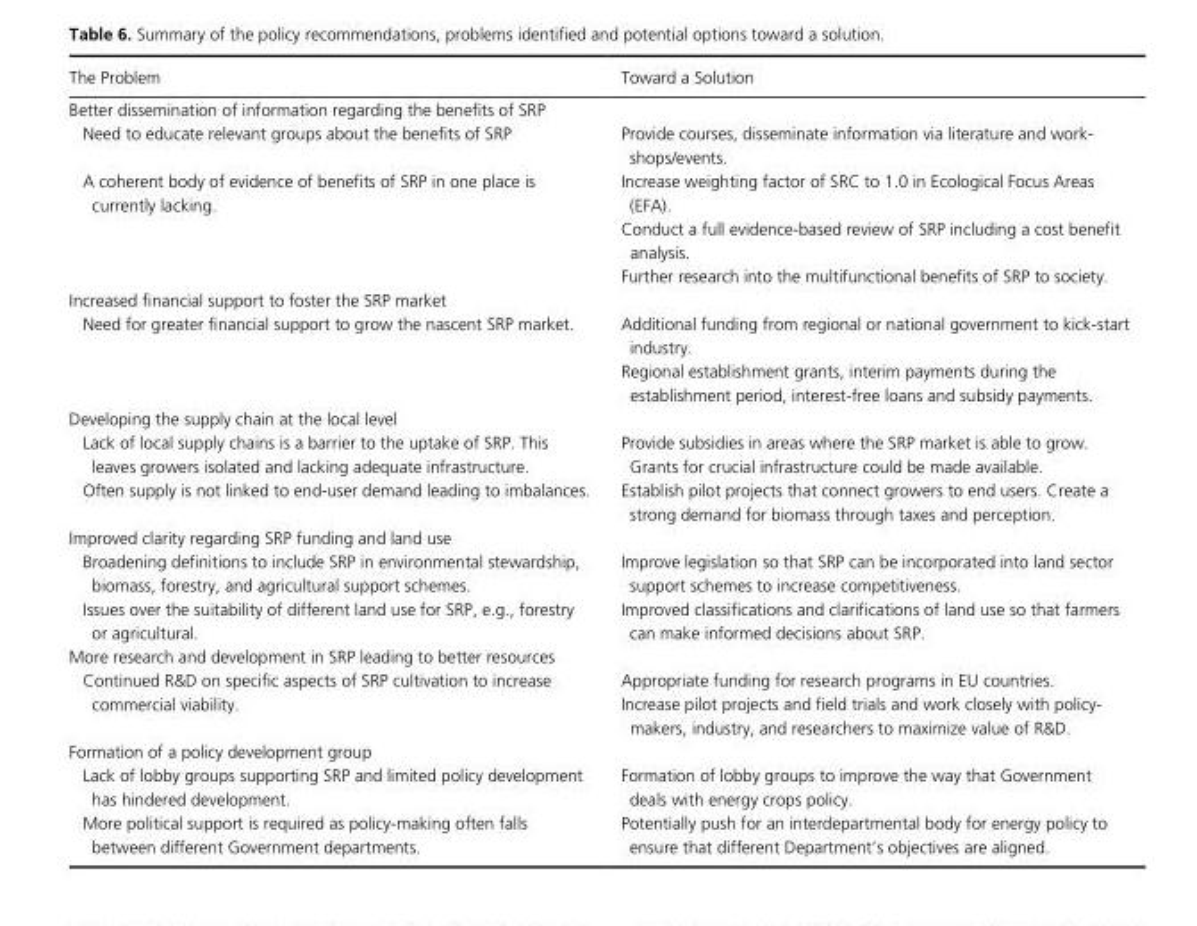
<table><thead><tr><td>The Problem</td><td>Toward a Solution</td></tr></thead><tbody><tr><td colspan="2">Better dissemination of information regarding the benefits of SRP</td></tr><tr><td>Need to educate relevant groups about the benefits of SRP</td><td>Provide courses, disseminate information via literature and work- shops/events.</td></tr><tr><td rowspan="3">A coherent body of evidence of benefits of SRP in one place is currently lacking.</td><td>Increase weighting factor of SRC to 1.0 in Ecological Focus Areas (EFA).</td></tr><tr><td>Conduct a full evidence- based review of SRP including a cost benefit analysis.</td></tr><tr><td>Further research into the multifunctional benefits of SRP to society.</td></tr><tr><td colspan="2">Increased financial support to foster the SRP market</td></tr><tr><td rowspan="2">Need for greater financial support to grow the nascent SRP market.</td><td>Additional funding from regional or national government to kick- start industry.</td></tr><tr><td>Regional establishment grants, interim payments during the establishment period, interest- free loans and subsidy payments.</td></tr><tr><td colspan="2">Developing the supply chain at the local level</td></tr><tr><td>Lack of local supply chains is a barrier to the uptake of SRP. This leaves growers isolated and lacking adequate infrastructure.</td><td>Provide subsidies in areas where the SRP market is able to grow. Grants for crucial infrastructure could be made available.</td></tr><tr><td>Often supply is not linked to end- user demand leading to imbalances.</td><td>Establish pilot projects that connect growers to end users. Create a strong demand for biomass through taxes and perception.</td></tr><tr><td colspan="2">Improved clarity regarding SRP funding and land use</td></tr><tr><td>Broadening definitions to include SRP in environmental stewardship, biomass, forestry, and agricultural support schemes.</td><td>Improve legislation so that SRP can be incorporated into land sector support schemes to increase competitiveness.</td></tr><tr><td>Issues over the suitability of different land use for SRP, e.g., forestry or agricultural.</td><td>Improved classifications and clarifications of land use so that farmers can make informed decisions about SRP.</td></tr><tr><td colspan="2">More research and development in SRP leading to better resources</td></tr><tr><td rowspan="2">Continued R&amp;D on specific aspects of SRP cultivation to increase commercial viability.</td><td>Appropriate funding for research programs in EU countries.</td></tr><tr><td>Increase pilot projects and field trials and work closely with policy- makers, industry, and researchers to maximize value of R&amp;D.</td></tr><tr><td colspan="2">Formation of a policy development group</td></tr><tr><td>Lack of lobby groups supporting SRP and limited policy development has hindered development.</td><td>Formation of lobby groups to improve the way that Government deals with energy crops policy.</td></tr><tr><td>More political support is required as policy-making often falls between different Government departments.</td><td>Potentially push for an interdepartmental body for energy policy to ensure that different Department’s objectives are aligned.</td></tr></tbody></table>